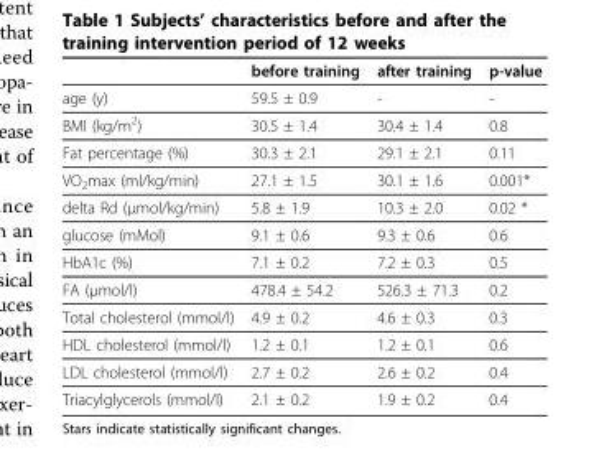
<table><thead><tr><td></td><td>before training</td><td>after training</td><td>p-value</td></tr></thead><tbody><tr><td>age (y)</td><td>59.5 ± 0.9</td><td>-</td><td>-</td></tr><tr><td>BMI (kg/m<sup>2</sup>)</td><td>30.5 ± 1.4</td><td>30.4 ± 1.4</td><td>0.8</td></tr><tr><td>Fat percentage (%)</td><td>30.3 ± 2.1</td><td>29.1 ± 2.1</td><td>0.11</td></tr><tr><td>VO<sub>2</sub>max (ml/kg/min)</td><td>27.1 ± 1.5</td><td>30.1 ± 1.6</td><td>0.001*</td></tr><tr><td>delta Rd (μmol/kg/min)</td><td>5.8 ± 1.9</td><td>10.3 ± 2.0</td><td>0.02 *</td></tr><tr><td>glucose (mMol)</td><td>9.1 ± 0.6</td><td>9.3 ± 0.6</td><td>0.6</td></tr><tr><td>HbA1c (%)</td><td>7.1 ± 0.2</td><td>7.2 ± 0.3</td><td>0.5</td></tr><tr><td>FA (μmol/l)</td><td>478.4 ± 54.2</td><td>526.3 ± 71.3</td><td>0.2</td></tr><tr><td>Total cholesterol (mmol/l)</td><td>4.9 ± 0.2</td><td>4.6 ± 0.3</td><td>0.3</td></tr><tr><td>HDL cholesterol (mmol/l)</td><td>1.2 ± 0.1</td><td>1.2 ± 0.1</td><td>0.6</td></tr><tr><td>LDL cholesterol (mmol/l)</td><td>2.7 ± 0.2</td><td>2.6 ± 0.2</td><td>0.4</td></tr><tr><td>Triacylglycerols (mmol/l)</td><td>2.1 ± 0.2</td><td>1.9 ± 0.2</td><td>0.4</td></tr></tbody></table>